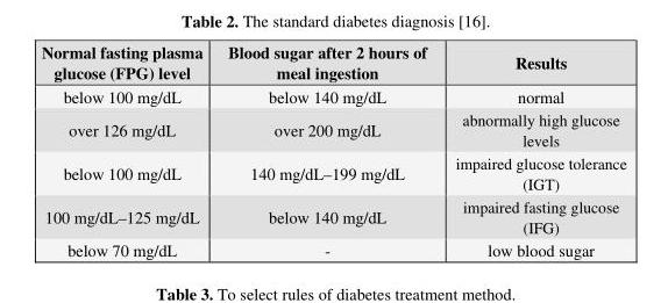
<table><thead><tr><td>Normal fasting plasma glucose (FPG) level</td><td>Blood sugar after 2 hours of meal ingestion</td><td>Results</td></tr></thead><tbody><tr><td>below 100 mg/dL</td><td>below 140 mg/dL</td><td>normal</td></tr><tr><td>over 126 mg/dL</td><td>over 200 mg/dL</td><td>abnormally high glucose levels</td></tr><tr><td>below 100 mg/dL</td><td>140 mg/dL–199 mg/dL</td><td>impaired glucose tolerance (IGT)</td></tr><tr><td>100 mg/dL–125 mg/dL</td><td>below 140 mg/dL</td><td>impaired fasting glucose (IFG)</td></tr><tr><td>below 70 mg/dL</td><td>-</td><td>low blood sugar</td></tr></tbody></table>